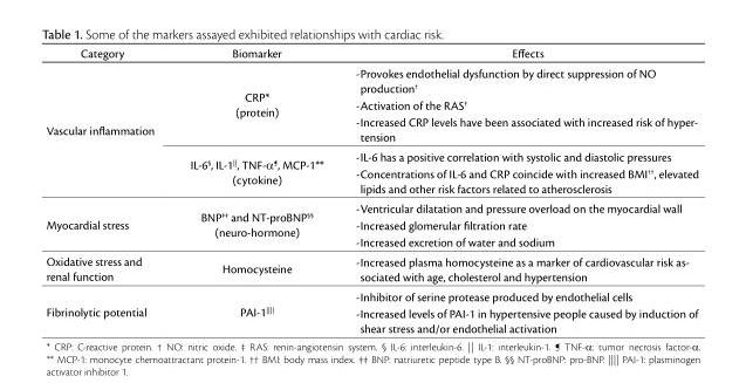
<table><thead><tr><td>Category</td><td>Biomarker</td><td>Effects</td></tr></thead><tbody><tr><td rowspan="2">Vascular inflammation</td><td>CRP* (protein)</td><td>- Provokes endothelial dysfunction by direct suppression of NO production† - Activation of the RAS‡ - Increased CRP levels have been associated with increased risk of hyper- tension</td></tr><tr><td>IL-6§, IL-1||, TNF-α¶, MCP-1** (cytokine)</td><td>- IL-6 has a positive correlation with systolic and diastolic pressures - Concentrations of IL-6 and CRP coincide with increased BMI††, elevated lipids and other risk factors related to atherosclerosis</td></tr><tr><td>Myocardial stress</td><td>BNP‡‡ and NT-proBNP§§ (neuro-hormone)</td><td>- Ventricular dilatation and pressure overload on the myocardial wall - Increased glomerular filtration rate - Increased excretion of water and sodium</td></tr><tr><td>Oxidative stress and renal function</td><td>Homocysteine</td><td>- Increased plasma homocysteine as a marker of cardiovascular risk as- sociated with age, cholesterol and hypertension</td></tr><tr><td>Fibrinolytic potential</td><td>PAI-1||||</td><td>- Inhibitor of serine protease produced by endothelial cells - Increased levels of PAI-1 in hypertensive people caused by induction of shear stress and/or endothelial activation</td></tr></tbody></table>